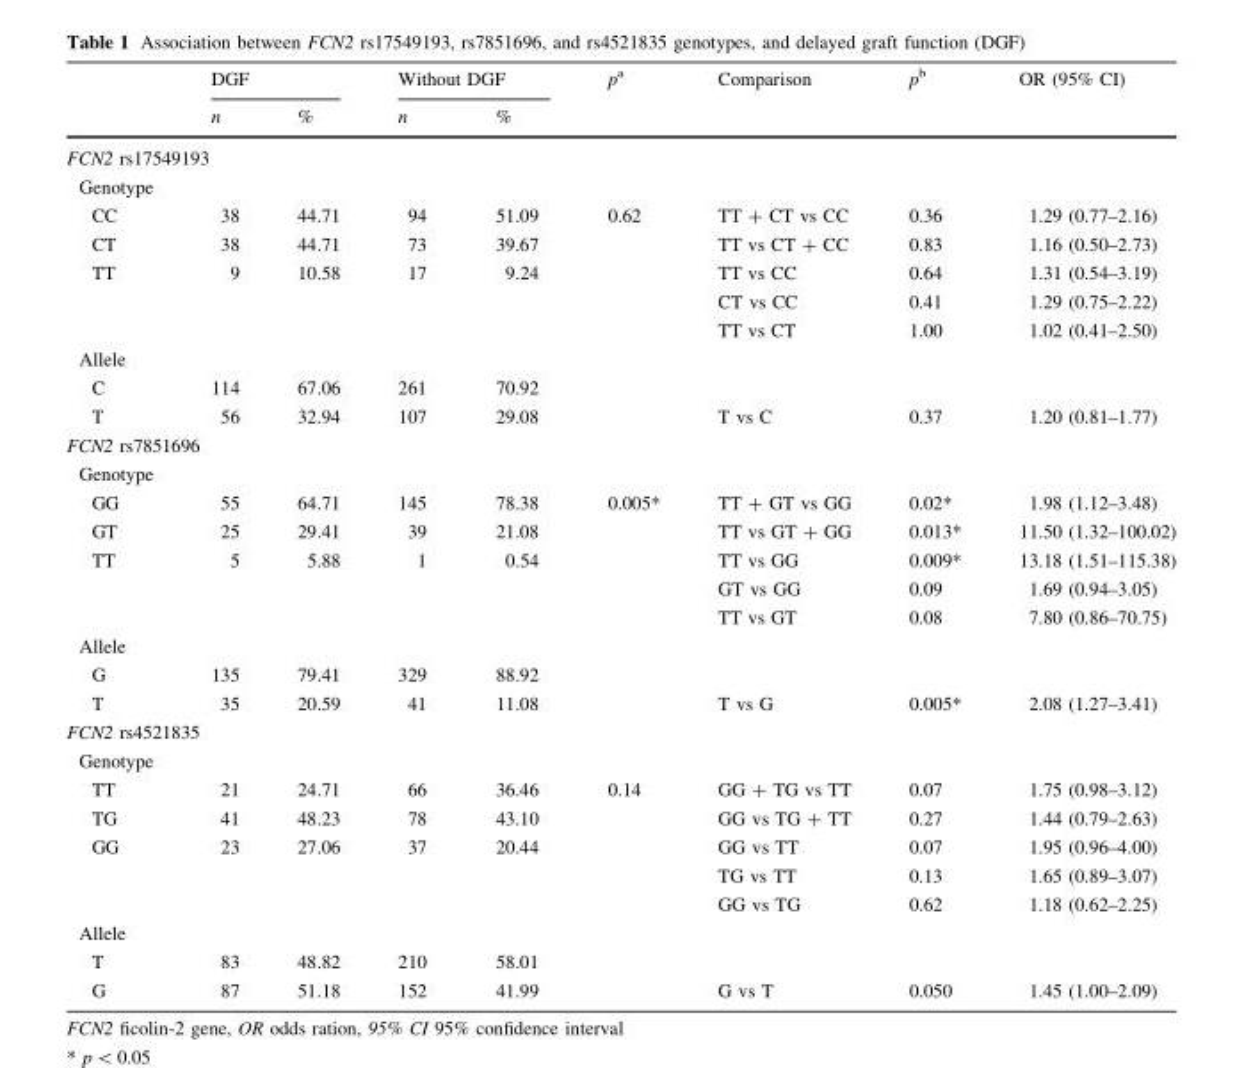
<table><thead><tr><td rowspan="2"></td><td colspan="2">DGF</td><td colspan="2">Without DGF</td><td rowspan="2">p<sup>a</sup></td><td rowspan="2">Comparison</td><td rowspan="2">p<sup>b</sup></td><td rowspan="2">OR (95% CI)</td></tr><tr><td>n</td><td>%</td><td>n</td><td>%</td></tr></thead><tbody><tr><td colspan="9">FCN2 rs17549193</td></tr><tr><td colspan="9">Genotype</td></tr><tr><td>CC</td><td>38</td><td>44.71</td><td>94</td><td>51.09</td><td rowspan="3">0.62</td><td>TT + CT vs CC</td><td>0.36</td><td>1.29 (0.77–2.16)</td></tr><tr><td>CT</td><td>38</td><td>44.71</td><td>73</td><td>39.67</td><td>TT vs CT + CC</td><td>0.83</td><td>1.16 (0.50–2.73)</td></tr><tr><td rowspan="3">TT</td><td>9</td><td>10.58</td><td>17</td><td>9.24</td><td>TT vs CC</td><td>0.64</td><td>1.31 (0.54–3.19)</td></tr><tr><td></td><td></td><td></td><td></td><td></td><td>CT vs CC</td><td>0.41</td><td>1.29 (0.75–2.22)</td></tr><tr><td></td><td></td><td></td><td></td><td></td><td>TT vs CT</td><td>1.00</td><td>1.02 (0.41–2.50)</td></tr><tr><td colspan="9">Allele</td></tr><tr><td>C</td><td>114</td><td>67.06</td><td>261</td><td>70.92</td><td></td><td></td><td></td><td></td></tr><tr><td>T</td><td>56</td><td>32.94</td><td>107</td><td>29.08</td><td></td><td>T vs C</td><td>0.37</td><td>1.20 (0.81–1.77)</td></tr><tr><td colspan="9">FCN2 rs7851696</td></tr><tr><td colspan="9">Genotype</td></tr><tr><td>GG</td><td>55</td><td>64.71</td><td>145</td><td>78.38</td><td rowspan="3">0.005*</td><td>TT + GT vs GG</td><td>0.02*</td><td>1.98 (1.12–3.48)</td></tr><tr><td>GT</td><td>25</td><td>29.41</td><td>39</td><td>21.08</td><td>TT vs GT + GG</td><td>0.013*</td><td>11.50 (1.32–100.02)</td></tr><tr><td rowspan="3">TT</td><td>5</td><td>5.88</td><td>1</td><td>0.54</td><td>TT vs GG</td><td>0.009*</td><td>13.18 (1.51–115.38)</td></tr><tr><td></td><td></td><td></td><td></td><td></td><td>GT vs GG</td><td>0.09</td><td>1.69 (0.94–3.05)</td></tr><tr><td></td><td></td><td></td><td></td><td></td><td>TT vs GT</td><td>0.08</td><td>7.80 (0.86–70.75)</td></tr><tr><td colspan="9">Allele</td></tr><tr><td>G</td><td>135</td><td>79.41</td><td>329</td><td>88.92</td><td></td><td></td><td></td><td></td></tr><tr><td>T</td><td>35</td><td>20.59</td><td>41</td><td>11.08</td><td></td><td>T vs G</td><td>0.005*</td><td>2.08 (1.27–3.41)</td></tr><tr><td colspan="9">FCN2 rs4521835</td></tr><tr><td colspan="9">Genotype</td></tr><tr><td>TT</td><td>21</td><td>24.71</td><td>66</td><td>36.46</td><td rowspan="3">0.14</td><td>GG + TG vs TT</td><td>0.07</td><td>1.75 (0.98–3.12)</td></tr><tr><td>TG</td><td>41</td><td>48.23</td><td>78</td><td>43.10</td><td>GG vs TG + TT</td><td>0.27</td><td>1.44 (0.79–2.63)</td></tr><tr><td rowspan="3">GG</td><td>23</td><td>27.06</td><td>37</td><td>20.44</td><td>GG vs TT</td><td>0.07</td><td>1.95 (0.96–4.00)</td></tr><tr><td></td><td></td><td></td><td></td><td></td><td>TG vs TT</td><td>0.13</td><td>1.65 (0.89–3.07)</td></tr><tr><td></td><td></td><td></td><td></td><td></td><td>GG vs TG</td><td>0.62</td><td>1.18 (0.62–2.25)</td></tr><tr><td colspan="9">Allele</td></tr><tr><td>T</td><td>83</td><td>48.82</td><td>210</td><td>58.01</td><td></td><td></td><td></td><td></td></tr><tr><td>G</td><td>87</td><td>51.18</td><td>152</td><td>41.99</td><td></td><td>G vs T</td><td>0.050</td><td>1.45 (1.00–2.09)</td></tr></tbody></table>